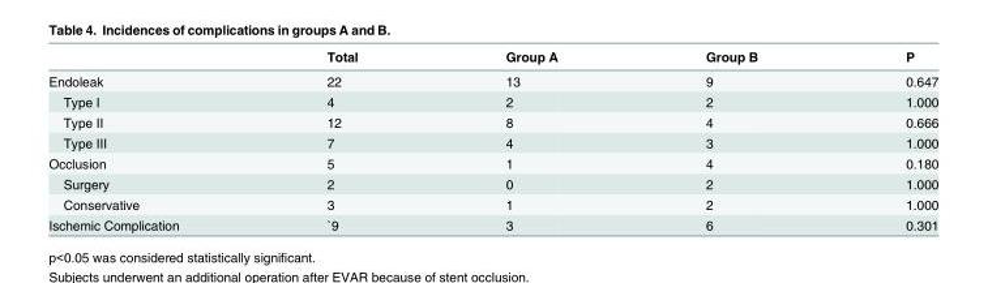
<table><thead><tr><td></td><td>Total</td><td>Group A</td><td>Group B</td><td>P</td></tr></thead><tbody><tr><td>Endoleak</td><td>22</td><td>13</td><td>9</td><td>0.647</td></tr><tr><td>Type I</td><td>4</td><td>2</td><td>2</td><td>1.000</td></tr><tr><td>Type II</td><td>12</td><td>8</td><td>4</td><td>0.666</td></tr><tr><td>Type III</td><td>7</td><td>4</td><td>3</td><td>1.000</td></tr><tr><td>Occlusion</td><td>5</td><td>1</td><td>4</td><td>0.180</td></tr><tr><td>Surgery</td><td>2</td><td>0</td><td>2</td><td>1.000</td></tr><tr><td>Conservative</td><td>3</td><td>1</td><td>2</td><td>1.000</td></tr><tr><td>Ischemic Complication</td><td>`9</td><td>3</td><td>6</td><td>0.301</td></tr></tbody></table>